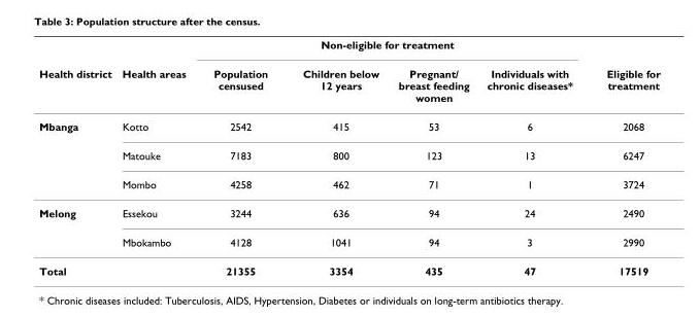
<table><thead><tr><td rowspan="2">Health district</td><td rowspan="2">Health areas</td><td colspan="4">Non-eligible for treatment</td><td rowspan="2">Eligible for treatment</td></tr><tr><td>Population censused</td><td>Children below 12 years</td><td>Pregnant/ breast feeding women</td><td>Individuals with chronic diseases*</td></tr></thead><tbody><tr><td rowspan="3">Mbanga</td><td>Kotto</td><td>2542</td><td>415</td><td>53</td><td>6</td><td>2068</td></tr><tr><td>Matouke</td><td>7183</td><td>800</td><td>123</td><td>13</td><td>6247</td></tr><tr><td>Mombo</td><td>4258</td><td>462</td><td>71</td><td>1</td><td>3724</td></tr><tr><td rowspan="2">Melong</td><td>Essekou</td><td>3244</td><td>636</td><td>94</td><td>24</td><td>2490</td></tr><tr><td>Mbokambo</td><td>4128</td><td>1041</td><td>94</td><td>3</td><td>2990</td></tr><tr><td>Total</td><td></td><td>21355</td><td>3354</td><td>435</td><td>47</td><td>17519</td></tr></tbody></table>